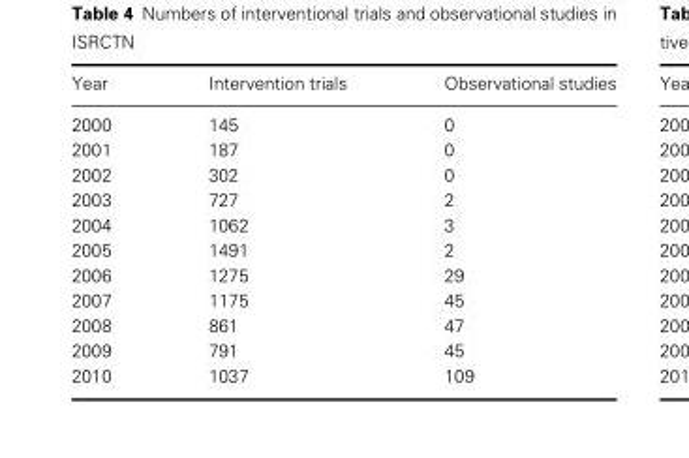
<table><thead><tr><td>Year</td><td>Intervention trials</td><td>Observational studies</td></tr></thead><tbody><tr><td>2000</td><td>145</td><td>0</td></tr><tr><td>2001</td><td>187</td><td>0</td></tr><tr><td>2002</td><td>302</td><td>0</td></tr><tr><td>2003</td><td>727</td><td>2</td></tr><tr><td>2004</td><td>1062</td><td>3</td></tr><tr><td>2005</td><td>1491</td><td>2</td></tr><tr><td>2006</td><td>1275</td><td>29</td></tr><tr><td>2007</td><td>1175</td><td>45</td></tr><tr><td>2008</td><td>861</td><td>47</td></tr><tr><td>2009</td><td>791</td><td>45</td></tr><tr><td>2010</td><td>1037</td><td>109</td></tr></tbody></table>